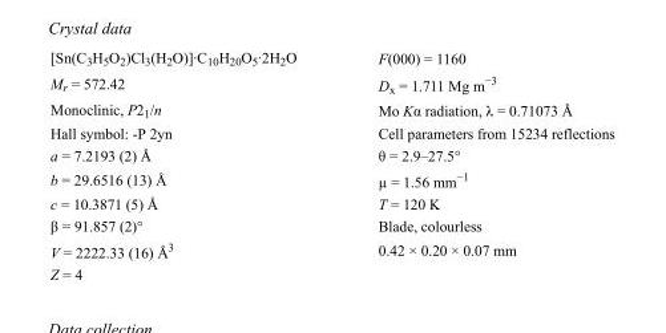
<table><tbody><tr><td>[Sn(C<sub>3</sub>H<sub>5</sub>O<sub>2</sub>)Cl<sub>3</sub>(H<sub>2</sub>O)]·C<sub>10</sub>H<sub>20</sub>O<sub>5</sub>·2H<sub>2</sub>O</td><td>F(000) = 1160</td></tr><tr><td>M<sub>r</sub> = 572.42</td><td>D<sub>x</sub> = 1.711 Mg m<sup>−3</sup></td></tr><tr><td>Monoclinic, P2<sub>1</sub>/n</td><td>Mo Kα radiation, λ = 0.71073 Å</td></tr><tr><td>Hall symbol: -P 2yn</td><td>Cell parameters from 15234 reflections</td></tr><tr><td>a = 7.2193 (2) Å</td><td>θ = 2.9–27.5°</td></tr><tr><td>b = 29.6516 (13) Å</td><td>µ = 1.56 mm<sup>−1</sup></td></tr><tr><td>c = 10.3871 (5) Å</td><td>T = 120 K</td></tr><tr><td>β = 91.857 (2)°</td><td>Blade, colourless</td></tr><tr><td>V = 2222.33 (16) Å<sup>3</sup></td><td>0.42 × 0.20 × 0.07 mm</td></tr><tr><td>Z = 4</td><td></td></tr></tbody></table>